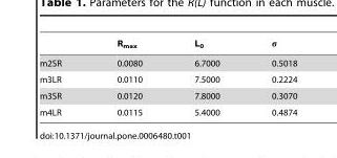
<table><thead><tr><td></td><td>R<sub>max</sub></td><td>L<sub>0</sub></td><td>σ</td></tr></thead><tbody><tr><td>m2SR</td><td>0.0080</td><td>6.7000</td><td>0.5018</td></tr><tr><td>m3LR</td><td>0.0110</td><td>7.5000</td><td>0.2224</td></tr><tr><td>m3SR</td><td>0.0120</td><td>7.8000</td><td>0.3070</td></tr><tr><td>m4LR</td><td>0.0115</td><td>5.4000</td><td>0.4874</td></tr></tbody></table>